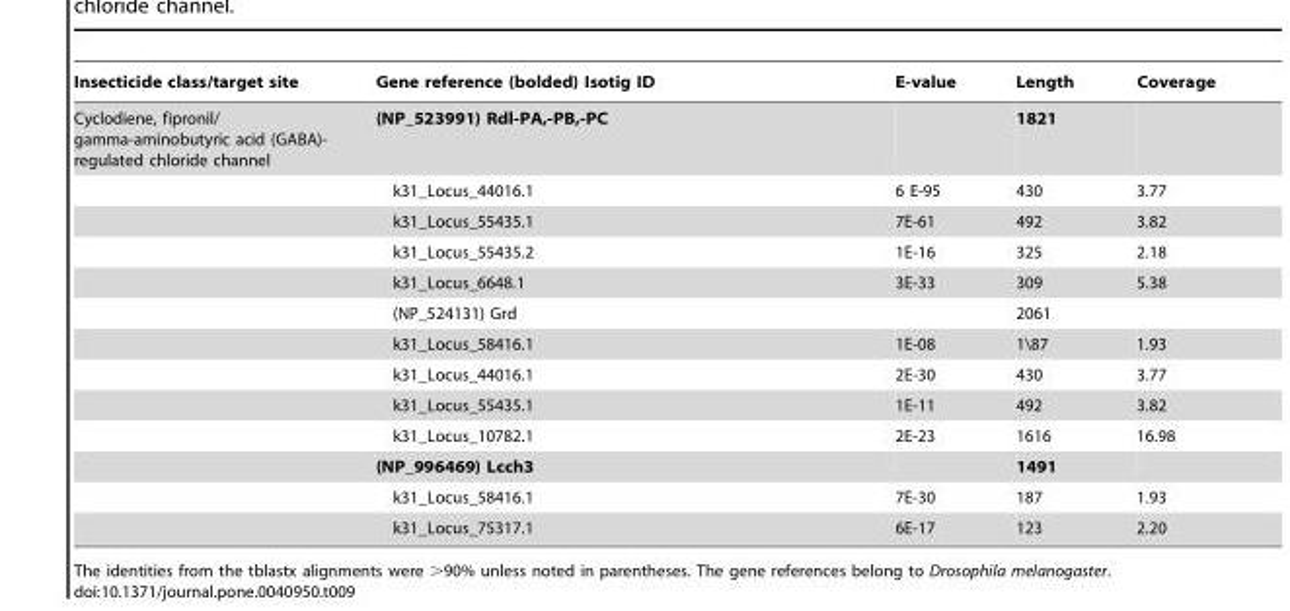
<table><thead><tr><td>Insecticide class/target site</td><td>Gene reference (bolded) Isotig ID</td><td>E-value</td><td>Length</td><td>Coverage</td></tr></thead><tbody><tr><td rowspan="13">Cyclodiene, fipronil/ gamma-aminobutyric acid (GABA)- regulated chloride channel</td><td>(NP_523991) Rdl-PA,-PB,-PC</td><td></td><td>1821</td><td></td></tr><tr><td>k31_Locus_44016.1</td><td>6 E-95</td><td>430</td><td>3.77</td></tr><tr><td>k31_Locus_55435.1</td><td>7E-61</td><td>492</td><td>3.82</td></tr><tr><td>k31_Locus_55435.2</td><td>1E-16</td><td>325</td><td>2.18</td></tr><tr><td>k31_Locus_6648.1</td><td>3E-33</td><td>309</td><td>5.38</td></tr><tr><td>(NP_524131) Grd</td><td></td><td>2061</td><td></td></tr><tr><td>k31_Locus_58416.1</td><td>1E-08</td><td>1\87</td><td>1.93</td></tr><tr><td>k31_Locus_44016.1</td><td>2E-30</td><td>430</td><td>3.77</td></tr><tr><td>k31_Locus_55435.1</td><td>1E-11</td><td>492</td><td>3.82</td></tr><tr><td>k31_Locus_10782.1</td><td>2E-23</td><td>1616</td><td>16.98</td></tr><tr><td>(NP_996469) Lcch3</td><td></td><td>1491</td><td></td></tr><tr><td>k31_Locus_58416.1</td><td>7E-30</td><td>187</td><td>1.93</td></tr><tr><td>k31_Locus_75317.1</td><td>6E-17</td><td>123</td><td>2.20</td></tr></tbody></table>